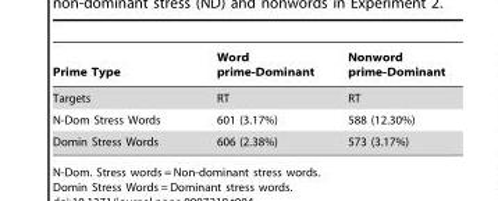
<table><thead><tr><td>Prime Type</td><td>Word prime-Dominant</td><td>Nonword prime-Dominant</td></tr></thead><tbody><tr><td>Targets</td><td>RT</td><td>RT</td></tr><tr><td>N-Dom Stress Words</td><td>601 (3.17%)</td><td>588 (12.30%)</td></tr><tr><td>Domin Stress Words</td><td>606 (2.38%)</td><td>573 (3.17%)</td></tr></tbody></table>